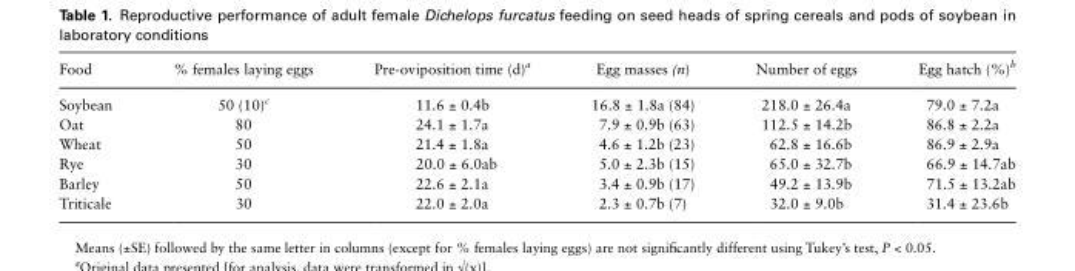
<table><thead><tr><td>Food</td><td>% females laying eggs</td><td>Pre-oviposition time (d)<sup>a</sup></td><td>Egg masses (n)</td><td>Number of eggs</td><td>Egg hatch (%)<sup>b</sup></td></tr></thead><tbody><tr><td>Soybean</td><td>50 (10)<sup>c</sup></td><td>11.6 ± 0.4b</td><td>16.8 ± 1.8a (84)</td><td>218.0 ± 26.4a</td><td>79.0 ± 7.2a</td></tr><tr><td>Oat</td><td>80</td><td>24.1 ± 1.7a</td><td>7.9 ± 0.9b (63)</td><td>112.5 ± 14.2b</td><td>86.8 ± 2.2a</td></tr><tr><td>Wheat</td><td>50</td><td>21.4 ± 1.8a</td><td>4.6 ± 1.2b (23)</td><td>62.8 ± 16.6b</td><td>86.9 ± 2.9a</td></tr><tr><td>Rye</td><td>30</td><td>20.0 ± 6.0ab</td><td>5.0 ± 2.3b (15)</td><td>65.0 ± 32.7b</td><td>66.9 ± 14.7ab</td></tr><tr><td>Barley</td><td>50</td><td>22.6 ± 2.1a</td><td>3.4 ± 0.9b (17)</td><td>49.2 ± 13.9b</td><td>71.5 ± 13.2ab</td></tr><tr><td>Triticale</td><td>30</td><td>22.0 ± 2.0a</td><td>2.3 ± 0.7b (7)</td><td>32.0 ± 9.0b</td><td>31.4 ± 23.6b</td></tr></tbody></table>